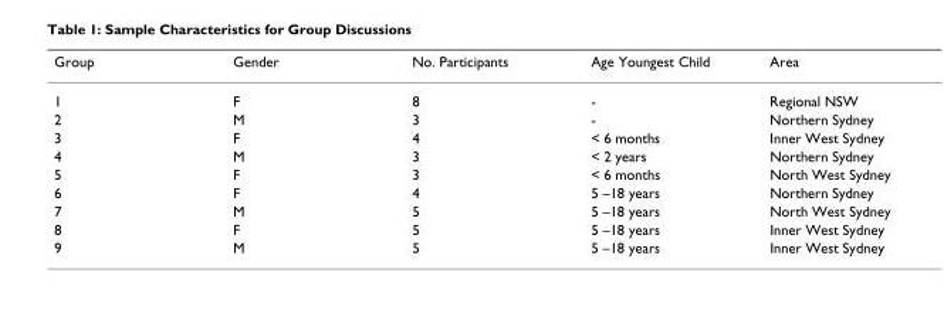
<table><thead><tr><td>Group</td><td>Gender</td><td>No. Participants</td><td>Age Youngest Child</td><td>Area</td></tr></thead><tbody><tr><td>1</td><td>F</td><td>8</td><td>-</td><td>Regional NSW</td></tr><tr><td>2</td><td>M</td><td>3</td><td>-</td><td>Northern Sydney</td></tr><tr><td>3</td><td>F</td><td>4</td><td>&lt; 6 months</td><td>Inner West Sydney</td></tr><tr><td>4</td><td>M</td><td>3</td><td>&lt; 2 years</td><td>Northern Sydney</td></tr><tr><td>5</td><td>F</td><td>3</td><td>&lt; 6 months</td><td>North West Sydney</td></tr><tr><td>6</td><td>F</td><td>4</td><td>5 –18 years</td><td>Northern Sydney</td></tr><tr><td>7</td><td>M</td><td>5</td><td>5 –18 years</td><td>North West Sydney</td></tr><tr><td>8</td><td>F</td><td>5</td><td>5 –18 years</td><td>Inner West Sydney</td></tr><tr><td>9</td><td>M</td><td>5</td><td>5 –18 years</td><td>Inner West Sydney</td></tr></tbody></table>